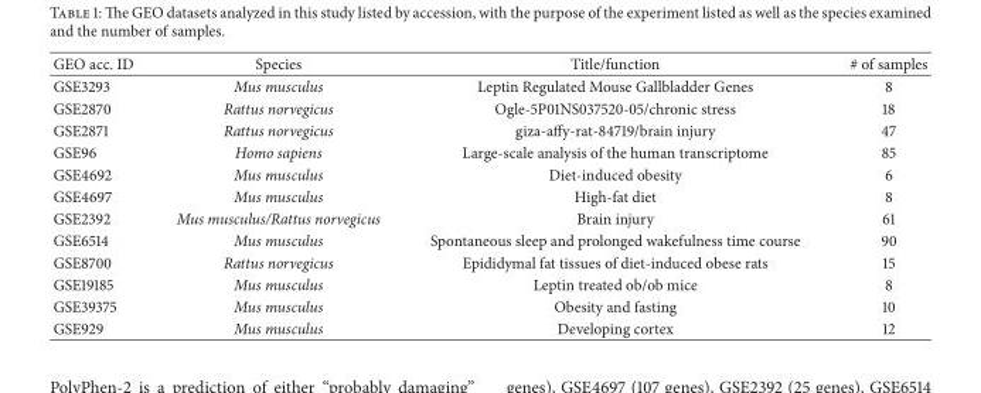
<table><thead><tr><td>GEO acc. ID</td><td>Species</td><td>Title/function</td><td># of samples</td></tr></thead><tbody><tr><td>GSE3293</td><td>Mus musculus</td><td>Leptin Regulated Mouse Gallbladder Genes</td><td>8</td></tr><tr><td>GSE2870</td><td>Rattus norvegicus</td><td>Ogle-5P01NS037520-05/chronic stress</td><td>18</td></tr><tr><td>GSE2871</td><td>Rattus norvegicus</td><td>giza-affy-rat-84719/brain injury</td><td>47</td></tr><tr><td>GSE96</td><td>Homo sapiens</td><td>Large-scale analysis of the human transcriptome</td><td>85</td></tr><tr><td>GSE4692</td><td>Mus musculus</td><td>Diet-induced obesity</td><td>6</td></tr><tr><td>GSE4697</td><td>Mus musculus</td><td>High-fat diet</td><td>8</td></tr><tr><td>GSE2392</td><td>Mus musculus/Rattus norvegicus</td><td>Brain injury</td><td>61</td></tr><tr><td>GSE6514</td><td>Mus musculus</td><td>Spontaneous sleep and prolonged wakefulness time course</td><td>90</td></tr><tr><td>GSE8700</td><td>Rattus norvegicus</td><td>Epididymal fat tissues of diet-induced obese rats</td><td>15</td></tr><tr><td>GSE19185</td><td>Mus musculus</td><td>Leptin treated ob/ob mice</td><td>8</td></tr><tr><td>GSE39375</td><td>Mus musculus</td><td>Obesity and fasting</td><td>10</td></tr><tr><td>GSE929</td><td>Mus musculus</td><td>Developing cortex</td><td>12</td></tr></tbody></table>